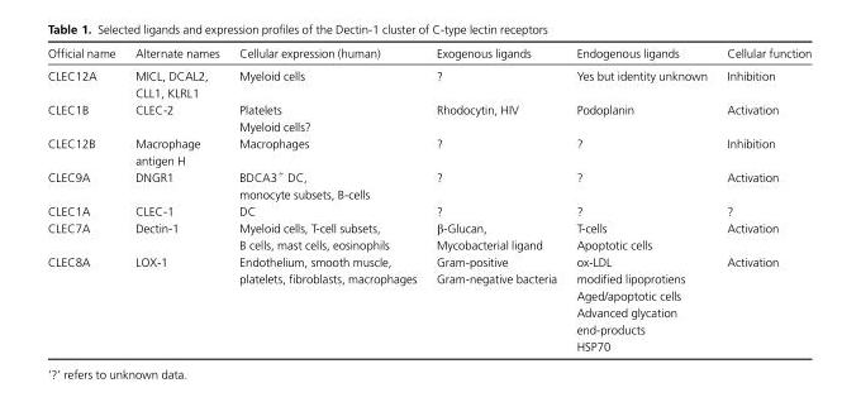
<table><thead><tr><td>Official name</td><td>Alternate names</td><td>Cellular expression (human)</td><td>Exogenous ligands</td><td>Endogenous ligands</td><td>Cellular function</td></tr></thead><tbody><tr><td>CLEC12A</td><td>MICL, DCAL2, CLL1, KLRL1</td><td>Myeloid cells</td><td>?</td><td>Yes but identity unknown</td><td>Inhibition</td></tr><tr><td>CLEC1B</td><td>CLEC-2</td><td>Platelets Myeloid cells?</td><td>Rhodocytin, HIV</td><td>Podoplanin</td><td>Activation</td></tr><tr><td>CLEC12B</td><td>Macrophage antigen H</td><td>Macrophages</td><td>?</td><td>?</td><td>Inhibition</td></tr><tr><td>CLEC9A</td><td>DNGR1</td><td>BDCA3<sup>+</sup> DC, monocyte subsets, B-cells</td><td>?</td><td>?</td><td>Activation</td></tr><tr><td>CLEC1A</td><td>CLEC-1</td><td>DC</td><td>?</td><td>?</td><td>?</td></tr><tr><td>CLEC7A</td><td>Dectin-1</td><td>Myeloid cells, T-cell subsets, B cells, mast cells, eosinophils</td><td>β-Glucan, Mycobacterial ligand</td><td>T-cells Apoptotic cells</td><td>Activation</td></tr><tr><td>CLEC8A</td><td>LOX-1</td><td>Endothelium, smooth muscle, platelets, fibroblasts, macrophages</td><td>Gram-positive Gram-negative bacteria</td><td>ox-LDL modified lipoprotiens Aged/apoptotic cells Advanced glycation end-products HSP70</td><td>Activation</td></tr></tbody></table>